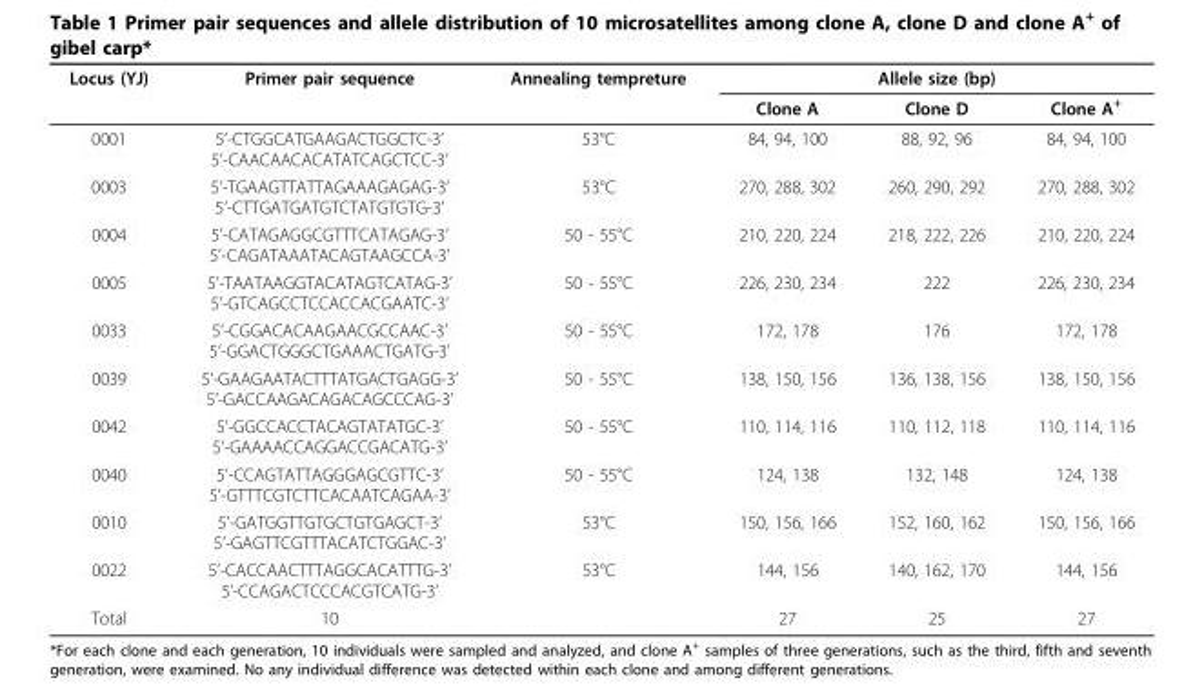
<table><thead><tr><td rowspan="2">Locus (YJ)</td><td rowspan="2">Primer pair sequence</td><td rowspan="2">Annealing tempreture</td><td colspan="3">Allele size (bp)</td></tr><tr><td>Clone A</td><td>Clone D</td><td>Clone A<sup>+</sup></td></tr></thead><tbody><tr><td>0001</td><td>5’-CTGGCATGAAGACTGGCTC-3’ 5’-CAACAACACATATCAGCTCC-3’</td><td>53°C</td><td>84, 94, 100</td><td>88, 92, 96</td><td>84, 94, 100</td></tr><tr><td>0003</td><td>5’-TGAAGTTATTAGAAAGAGAG-3’ 5’-CTTGATGATGTCTATGTGTG-3’</td><td>53°C</td><td>270, 288, 302</td><td>260, 290, 292</td><td>270, 288, 302</td></tr><tr><td>0004</td><td>5’-CATAGAGGCGTTTCATAGAG-3’ 5’-CAGATAAATACAGTAAGCCA-3’</td><td>50 - 55°C</td><td>210, 220, 224</td><td>218, 222, 226</td><td>210, 220, 224</td></tr><tr><td>0005</td><td>5’-TAATAAGGTACATAGTCATAG-3’ 5’-GTCAGCCTCCACCACGAATC-3’</td><td>50 - 55°C</td><td>226, 230, 234</td><td>222</td><td>226, 230, 234</td></tr><tr><td>0033</td><td>5’-CGGACACAAGAACGCCAAC-3’ 5’-GGACTGGGCTGAAACTGATG-3’</td><td>50 - 55°C</td><td>172, 178</td><td>176</td><td>172, 178</td></tr><tr><td>0039</td><td>5’-GAAGAATACTTTATGACTGAGG-3’ 5’-GACCAAGACAGACAGCCCAG-3’</td><td>50 - 55°C</td><td>138, 150, 156</td><td>136, 138, 156</td><td>138, 150, 156</td></tr><tr><td>0042</td><td>5’-GGCCACCTACAGTATATGC-3’ 5’-GAAAACCAGGACCGACATG-3’</td><td>50 - 55°C</td><td>110, 114, 116</td><td>110, 112, 118</td><td>110, 114, 116</td></tr><tr><td>0040</td><td>5’-CCAGTATTAGGGAGCGTTC-3’ 5’-GTTTCGTCTTCACAATCAGAA-3’</td><td>50 - 55°C</td><td>124, 138</td><td>132, 148</td><td>124, 138</td></tr><tr><td>0010</td><td>5’-GATGGTTGTGCTGTGAGCT-3’ 5’-GAGTTCGTTTACATCTGGAC-3’</td><td>53°C</td><td>150, 156, 166</td><td>152, 160, 162</td><td>150, 156, 166</td></tr><tr><td>0022</td><td>5’-CACCAACTTTAGGCACATTTG-3’ 5’-CCAGACTCCCACGTCATG-3’</td><td>53°C</td><td>144, 156</td><td>140, 162, 170</td><td>144, 156</td></tr><tr><td>Total</td><td>10</td><td></td><td>27</td><td>25</td><td>27</td></tr></tbody></table>